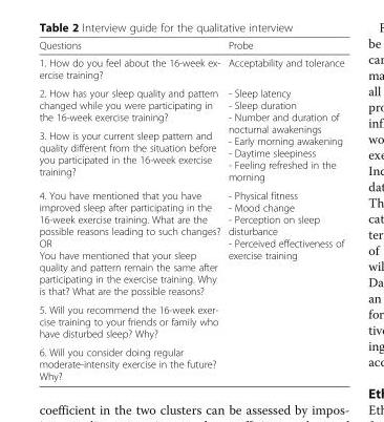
<table><thead><tr><td>Questions</td><td>Probe</td></tr></thead><tbody><tr><td>1. How do you feel about the 16-week ex- ercise training?</td><td>Acceptability and tolerance</td></tr><tr><td>2. How has your sleep quality and pattern changed while you were participating in the 16-week exercise training?</td><td rowspan="2">- Sleep latency - Sleep duration - Number and duration of nocturnal awakenings - Early morning awakening - Daytime sleepiness - Feeling refreshed in the morning</td></tr><tr><td>3. How is your current sleep pattern and quality different from the situation before you participated in the 16-week exercise training?</td></tr><tr><td>4. You have mentioned that you have improved sleep after participating in the 16-week exercise training. What are the possible reasons leading to such changes? OR You have mentioned that your sleep quality and pattern remain the same after participating in the exercise training. Why is that? What are the possible reasons?</td><td>- Physical fitness - Mood change - Perception on sleep disturbance - Perceived effectiveness of exercise training</td></tr><tr><td colspan="2">5. Will you recommend the 16-week exer- cise training to your friends or family who have disturbed sleep? Why?</td></tr><tr><td>6. Will you consider doing regular moderate-intensity exercise in the future? Why?</td><td></td></tr></tbody></table>